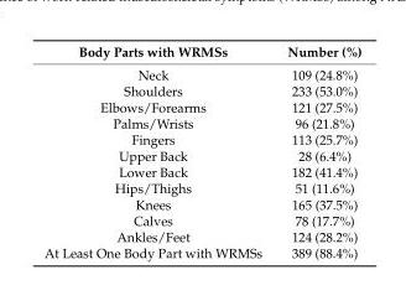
<table><thead><tr><td>Body Parts with WRMSs</td><td>Number (%)</td></tr></thead><tbody><tr><td>Neck</td><td>109 (24.8%)</td></tr><tr><td>Shoulders</td><td>233 (53.0%)</td></tr><tr><td>Elbows/Forearms</td><td>121 (27.5%)</td></tr><tr><td>Palms/Wrists</td><td>96 (21.8%)</td></tr><tr><td>Fingers</td><td>113 (25.7%)</td></tr><tr><td>Upper Back</td><td>28 (6.4%)</td></tr><tr><td>Lower Back</td><td>182 (41.4%)</td></tr><tr><td>Hips/Thighs</td><td>51 (11.6%)</td></tr><tr><td>Knees</td><td>165 (37.5%)</td></tr><tr><td>Calves</td><td>78 (17.7%)</td></tr><tr><td>Ankles/Feet</td><td>124 (28.2%)</td></tr><tr><td>At Least One Body Part with WRMSs</td><td>389 (88.4%)</td></tr></tbody></table>